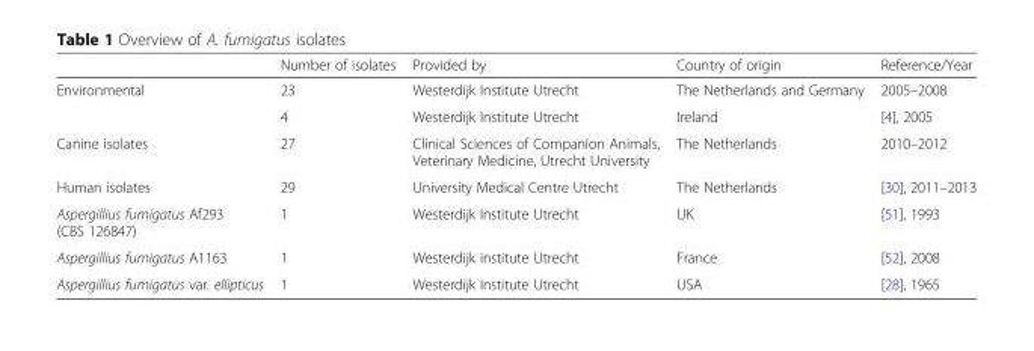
<table><thead><tr><td></td><td>Number of isolates</td><td>Provided by</td><td>Country of origin</td><td>Reference/Year</td></tr></thead><tbody><tr><td rowspan="2">Environmental</td><td>23</td><td>Westerdijk Institute Utrecht</td><td>The Netherlands and Germany</td><td>2005–2008</td></tr><tr><td>4</td><td>Westerdijk Institute Utrecht</td><td>Ireland</td><td>[4], 2005</td></tr><tr><td>Canine isolates</td><td>27</td><td>Clinical Sciences of Companion Animals, Veterinary Medicine, Utrecht University</td><td>The Netherlands</td><td>2010–2012</td></tr><tr><td>Human isolates</td><td>29</td><td>University Medical Centre Utrecht</td><td>The Netherlands</td><td>[30], 2011–2013</td></tr><tr><td>Aspergillius fumigatus Af293 (CBS 126847)</td><td>1</td><td>Westerdijk Institute Utrecht</td><td>UK</td><td>[51], 1993</td></tr><tr><td>Aspergillius fumigatus A1163</td><td>1</td><td>Westerdijk institute Utrecht</td><td>France</td><td>[52], 2008</td></tr><tr><td>Aspergillius fumigatus var. ellipticus</td><td>1</td><td>Westerdijk Institute Utrecht</td><td>USA</td><td>[28], 1965</td></tr></tbody></table>